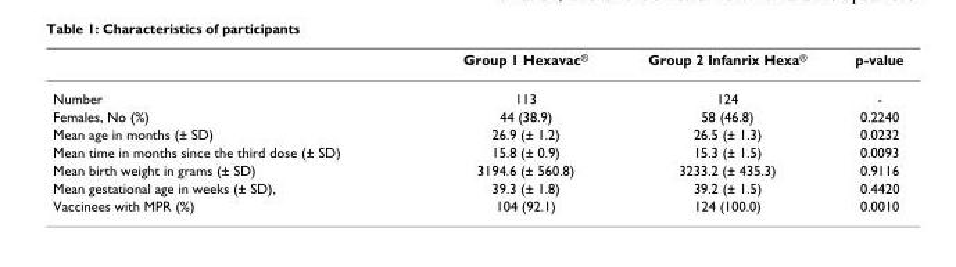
<table><thead><tr><td></td><td>Group 1 Hexavac<sup>®</sup></td><td>Group 2 Infanrix Hexa<sup>®</sup></td><td>p-value</td></tr></thead><tbody><tr><td>Number</td><td>113</td><td>124</td><td>-</td></tr><tr><td>Females, No (%)</td><td>44 (38.9)</td><td>58 (46.8)</td><td>0.2240</td></tr><tr><td>Mean age in months (± SD)</td><td>26.9 (± 1.2)</td><td>26.5 (± 1.3)</td><td>0.0232</td></tr><tr><td>Mean time in months since the third dose (± SD)</td><td>15.8 (± 0.9)</td><td>15.3 (± 1.5)</td><td>0.0093</td></tr><tr><td>Mean birth weight in grams (± SD)</td><td>3194.6 (± 560.8)</td><td>3233.2 (± 435.3)</td><td>0.9116</td></tr><tr><td>Mean gestational age in weeks (± SD),</td><td>39.3 (± 1.8)</td><td>39.2 (± 1.5)</td><td>0.4420</td></tr><tr><td>Vaccinees with MPR (%)</td><td>104 (92.1)</td><td>124 (100.0)</td><td>0.0010</td></tr></tbody></table>